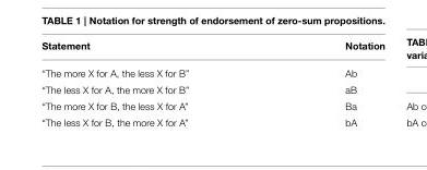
<table><thead><tr><td>Statement</td><td>Notation</td></tr></thead><tbody><tr><td>“The more X for A, the less X for B”</td><td>Ab</td></tr><tr><td>“The less X for A, the more X for B”</td><td>aB</td></tr><tr><td>“The more X for B, the less X for A”</td><td>Ba</td></tr><tr><td>“The less X for B, the more X for A”</td><td>bA</td></tr></tbody></table>